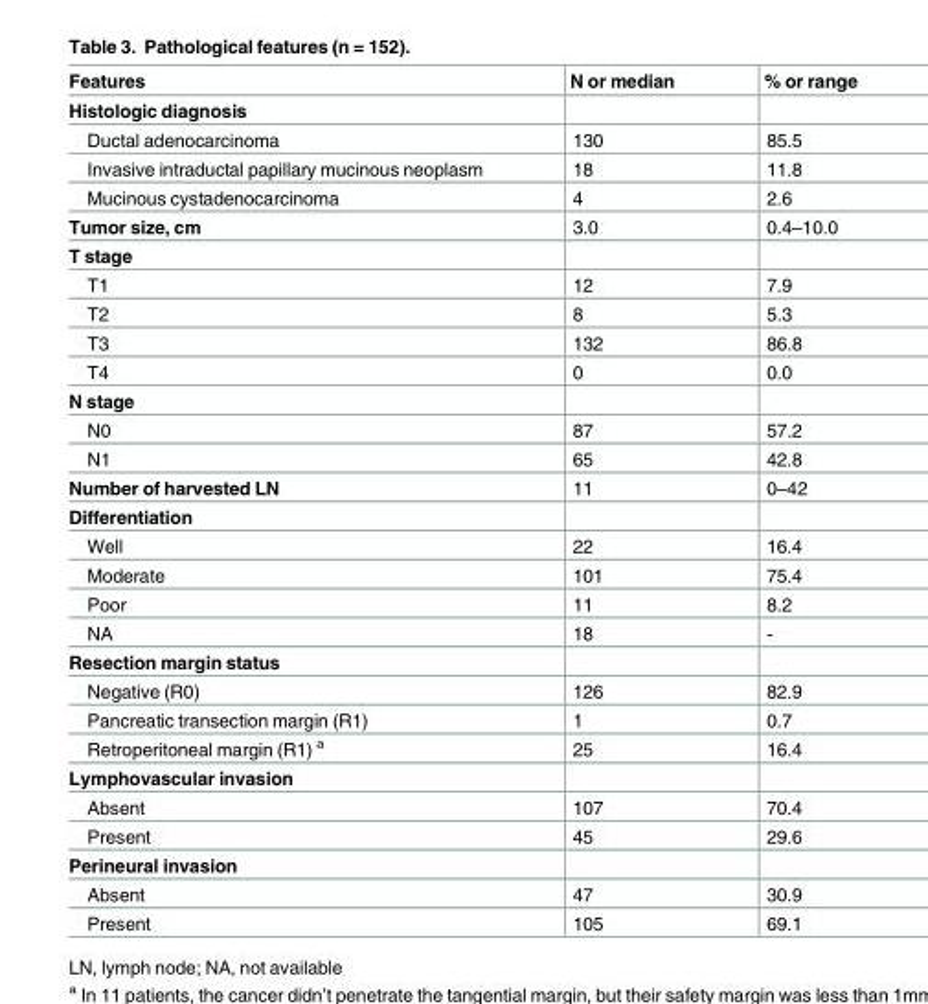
<table><thead><tr><td>Features</td><td>N or median</td><td>% or range</td></tr></thead><tbody><tr><td colspan="3">Histologic diagnosis</td></tr><tr><td>Ductal adenocarcinoma</td><td>130</td><td>85.5</td></tr><tr><td>Invasive intraductal papillary mucinous neoplasm</td><td>18</td><td>11.8</td></tr><tr><td>Mucinous cystadenocarcinoma</td><td>4</td><td>2.6</td></tr><tr><td>Tumor size, cm</td><td>3.0</td><td>0.4–10.0</td></tr><tr><td colspan="3">T stage</td></tr><tr><td>T1</td><td>12</td><td>7.9</td></tr><tr><td>T2</td><td>8</td><td>5.3</td></tr><tr><td>T3</td><td>132</td><td>86.8</td></tr><tr><td>T4</td><td>0</td><td>0.0</td></tr><tr><td colspan="3">N stage</td></tr><tr><td>N0</td><td>87</td><td>57.2</td></tr><tr><td>N1</td><td>65</td><td>42.8</td></tr><tr><td>Number of harvested LN</td><td>11</td><td>0–42</td></tr><tr><td colspan="3">Differentiation</td></tr><tr><td>Well</td><td>22</td><td>16.4</td></tr><tr><td>Moderate</td><td>101</td><td>75.4</td></tr><tr><td>Poor</td><td>11</td><td>8.2</td></tr><tr><td>NA</td><td>18</td><td>-</td></tr><tr><td colspan="3">Resection margin status</td></tr><tr><td>Negative (R0)</td><td>126</td><td>82.9</td></tr><tr><td>Pancreatic transection margin (R1)</td><td>1</td><td>0.7</td></tr><tr><td>Retroperitoneal margin (R1) <sup>a</sup></td><td>25</td><td>16.4</td></tr><tr><td colspan="3">Lymphovascular invasion</td></tr><tr><td>Absent</td><td>107</td><td>70.4</td></tr><tr><td>Present</td><td>45</td><td>29.6</td></tr><tr><td colspan="3">Perineural invasion</td></tr><tr><td>Absent</td><td>47</td><td>30.9</td></tr><tr><td>Present</td><td>105</td><td>69.1</td></tr></tbody></table>